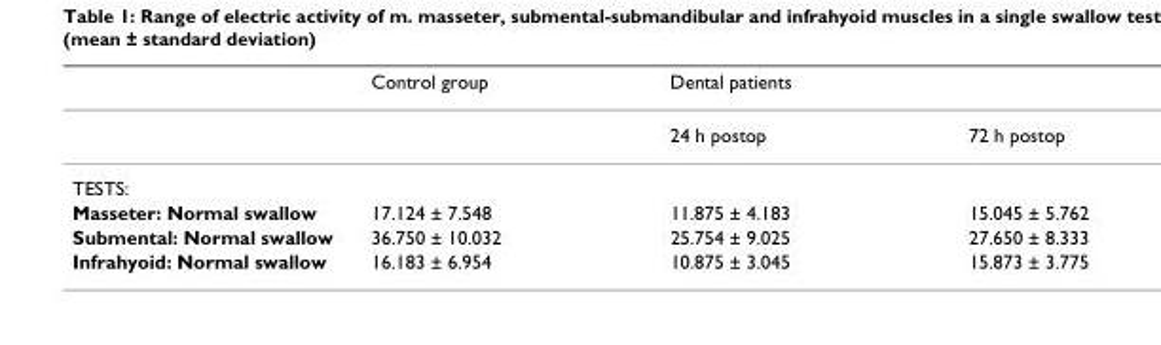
<table><thead><tr><td rowspan="2"></td><td rowspan="2">Control group</td><td colspan="2">Dental patients</td></tr><tr><td>24 h postop</td><td>72 h postop</td></tr></thead><tbody><tr><td colspan="4">TESTS:</td></tr><tr><td>Masseter: Normal swallow</td><td>17.124 ± 7.548</td><td>11.875 ± 4.183</td><td>15.045 ± 5.762</td></tr><tr><td>Submental: Normal swallow</td><td>36.750 ± 10.032</td><td>25.754 ± 9.025</td><td>27.650 ± 8.333</td></tr><tr><td>Infrahyoid: Normal swallow</td><td>16.183 ± 6.954</td><td>10.875 ± 3.045</td><td>15.873 ± 3.775</td></tr></tbody></table>